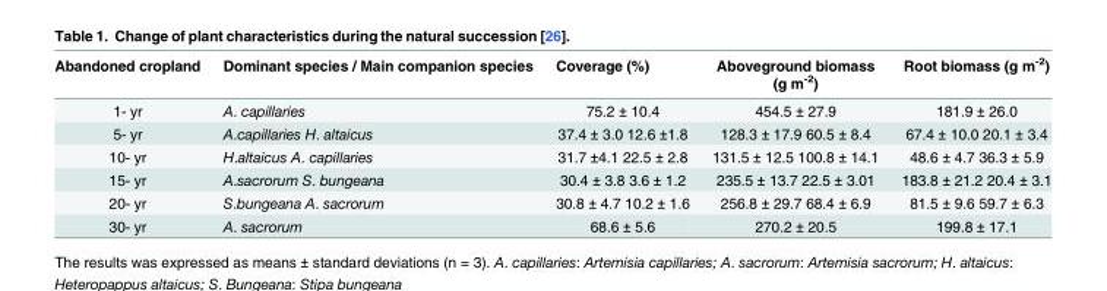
<table><thead><tr><td>Abandoned cropland</td><td>Dominant species / Main companion species</td><td>Coverage (%)</td><td>Aboveground biomass (g m<sup>-2</sup>)</td><td>Root biomass (g m<sup>-2</sup>)</td></tr></thead><tbody><tr><td>1- yr</td><td>A. capillaries</td><td>75.2 ± 10.4</td><td>454.5 ± 27.9</td><td>181.9 ± 26.0</td></tr><tr><td>5- yr</td><td>A.capillaries H. altaicus</td><td>37.4 ± 3.0 12.6 ±1.8</td><td>128.3 ± 17.9 60.5 ± 8.4</td><td>67.4 ± 10.0 20.1 ± 3.4</td></tr><tr><td>10- yr</td><td>H.altaicus A. capillaries</td><td>31.7 ±4.1 22.5 ± 2.8</td><td>131.5 ± 12.5 100.8 ± 14.1</td><td>48.6 ± 4.7 36.3 ± 5.9</td></tr><tr><td>15- yr</td><td>A.sacrorum S. bungeana</td><td>30.4 ± 3.8 3.6 ± 1.2</td><td>235.5 ± 13.7 22.5 ± 3.01</td><td>183.8 ± 21.2 20.4 ± 3.1</td></tr><tr><td>20- yr</td><td>S.bungeana A. sacrorum</td><td>30.8 ± 4.7 10.2 ± 1.6</td><td>256.8 ± 29.7 68.4 ± 6.9</td><td>81.5 ± 9.6 59.7 ± 6.3</td></tr><tr><td>30- yr</td><td>A. sacrorum</td><td>68.6 ± 5.6</td><td>270.2 ± 20.5</td><td>199.8 ± 17.1</td></tr></tbody></table>